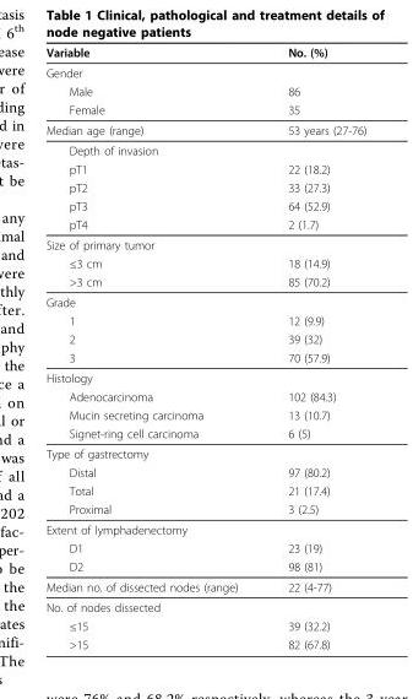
<table><thead><tr><td>Variable</td><td>No. (%)</td></tr></thead><tbody><tr><td colspan="2">Gender</td></tr><tr><td>Male</td><td>86</td></tr><tr><td>Female</td><td>35</td></tr><tr><td>Median age (range)</td><td>53 years (27-76)</td></tr><tr><td colspan="2">Depth of invasion</td></tr><tr><td>pT1</td><td>22 (18.2)</td></tr><tr><td>pT2</td><td>33 (27.3)</td></tr><tr><td>pT3</td><td>64 (52.9)</td></tr><tr><td>pT4</td><td>2 (1.7)</td></tr><tr><td colspan="2">Size of primary tumor</td></tr><tr><td>≤3 cm</td><td>18 (14.9)</td></tr><tr><td>&gt;3 cm</td><td>85 (70.2)</td></tr><tr><td colspan="2">Grade</td></tr><tr><td>1</td><td>12 (9.9)</td></tr><tr><td>2</td><td>39 (32)</td></tr><tr><td>3</td><td>70 (57.9)</td></tr><tr><td colspan="2">Histology</td></tr><tr><td>Adenocarcinoma</td><td>102 (84.3)</td></tr><tr><td>Mucin secreting carcinoma</td><td>13 (10.7)</td></tr><tr><td>Signet-ring cell carcinoma</td><td>6 (5)</td></tr><tr><td colspan="2">Type of gastrectomy</td></tr><tr><td>Distal</td><td>97 (80.2)</td></tr><tr><td>Total</td><td>21 (17.4)</td></tr><tr><td>Proximal</td><td>3 (2.5)</td></tr><tr><td colspan="2">Extent of lymphadenectomy</td></tr><tr><td>D1</td><td>23 (19)</td></tr><tr><td>D2</td><td>98 (81)</td></tr><tr><td>Median no. of dissected nodes (range)</td><td>22 (4-77)</td></tr><tr><td colspan="2">No. of nodes dissected</td></tr><tr><td>≤15</td><td>39 (32.2)</td></tr><tr><td>&gt;15</td><td>82 (67.8)</td></tr></tbody></table>